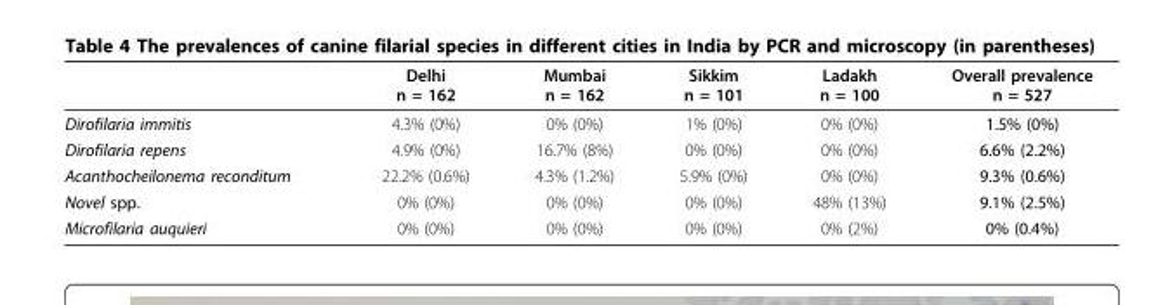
<table><thead><tr><td></td><td>Delhi n = 162</td><td>Mumbai n = 162</td><td>Sikkim n = 101</td><td>Ladakh n = 100</td><td>Overall prevalence n = 527</td></tr></thead><tbody><tr><td>Dirofilaria immitis</td><td>4.3% (0%)</td><td>0% (0%)</td><td>1% (0%)</td><td>0% (0%)</td><td>1.5% (0%)</td></tr><tr><td>Dirofilaria repens</td><td>4.9% (0%)</td><td>16.7% (8%)</td><td>0% (0%)</td><td>0% (0%)</td><td>6.6% (2.2%)</td></tr><tr><td>Acanthocheilonema reconditum</td><td>22.2% (0.6%)</td><td>4.3% (1.2%)</td><td>5.9% (0%)</td><td>0% (0%)</td><td>9.3% (0.6%)</td></tr><tr><td>Novel spp.</td><td>0% (0%)</td><td>0% (0%)</td><td>0% (0%)</td><td>48% (13%)</td><td>9.1% (2.5%)</td></tr><tr><td>Microfilaria auquieri</td><td>0% (0%)</td><td>0% (0%)</td><td>0% (0%)</td><td>0% (2%)</td><td>0% (0.4%)</td></tr></tbody></table>